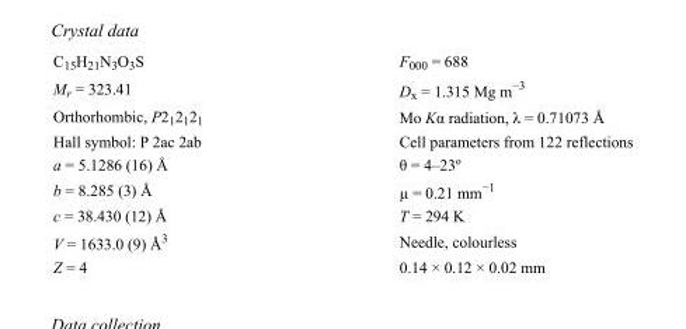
<table><tbody><tr><td>C<sub>15</sub>H<sub>21</sub>N<sub>3</sub>O<sub>3</sub>S</td><td>F000 = 688</td></tr><tr><td>M<sub>r</sub> = 323.41</td><td>D<sub>x</sub> = 1.315 Mg m<sup>−3</sup></td></tr><tr><td>Orthorhombic, P2<sub>1</sub>2<sub>1</sub>2<sub>1</sub></td><td>Mo Kα radiation, λ = 0.71073 Å</td></tr><tr><td>Hall symbol: P 2ac 2ab</td><td>Cell parameters from 122 reflections</td></tr><tr><td>a = 5.1286 (16) Å</td><td>θ = 4–23º</td></tr><tr><td>b = 8.285 (3) Å</td><td>µ = 0.21 mm<sup>−1</sup></td></tr><tr><td>c = 38.430 (12) Å</td><td>T = 294 K</td></tr><tr><td>V = 1633.0 (9) Å<sup>3</sup></td><td>Needle, colourless</td></tr><tr><td>Z = 4</td><td>0.14 × 0.12 × 0.02 mm</td></tr></tbody></table>